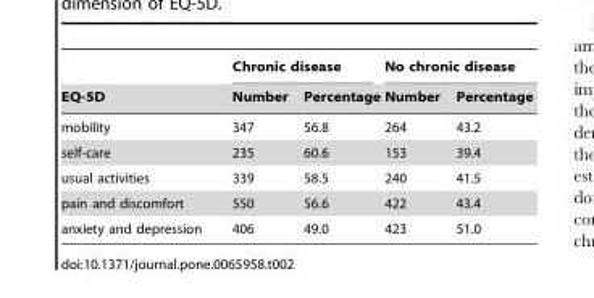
<table><thead><tr><td rowspan="2">EQ-5D</td><td colspan="2">Chronic disease</td><td colspan="2">No chronic disease</td></tr><tr><td>Number</td><td>Percentage</td><td>Number</td><td>Percentage</td></tr></thead><tbody><tr><td>mobility</td><td>347</td><td>56.8</td><td>264</td><td>43.2</td></tr><tr><td>self-care</td><td>235</td><td>60.6</td><td>153</td><td>39.4</td></tr><tr><td>usual activities</td><td>339</td><td>58.5</td><td>240</td><td>41.5</td></tr><tr><td>pain and discomfort</td><td>550</td><td>56.6</td><td>422</td><td>43.4</td></tr><tr><td>anxiety and depression</td><td>406</td><td>49.0</td><td>423</td><td>51.0</td></tr></tbody></table>